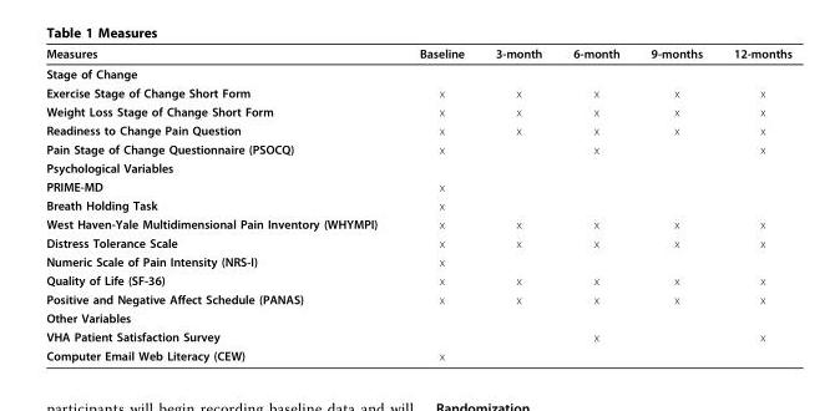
<table><thead><tr><td>Measures</td><td>Baseline</td><td>3-month</td><td>6-month</td><td>9-months</td><td>12-months</td></tr></thead><tbody><tr><td colspan="6">Stage of Change</td></tr><tr><td>Exercise Stage of Change Short Form</td><td>x</td><td>x</td><td>x</td><td>x</td><td>x</td></tr><tr><td>Weight Loss Stage of Change Short Form</td><td>x</td><td>x</td><td>x</td><td>x</td><td>x</td></tr><tr><td>Readiness to Change Pain Question</td><td>x</td><td>x</td><td>x</td><td>x</td><td>x</td></tr><tr><td>Pain Stage of Change Questionnaire (PSOCQ)</td><td>x</td><td></td><td>x</td><td></td><td>x</td></tr><tr><td colspan="6">Psychological Variables</td></tr><tr><td>PRIME-MD</td><td>x</td><td></td><td></td><td></td><td></td></tr><tr><td>Breath Holding Task</td><td>x</td><td></td><td></td><td></td><td></td></tr><tr><td>West Haven-Yale Multidimensional Pain Inventory (WHYMPI)</td><td>x</td><td>x</td><td>x</td><td>x</td><td>x</td></tr><tr><td>Distress Tolerance Scale</td><td>x</td><td>x</td><td>x</td><td>x</td><td>x</td></tr><tr><td>Numeric Scale of Pain Intensity (NRS-I)</td><td>x</td><td></td><td></td><td></td><td></td></tr><tr><td>Quality of Life (SF-36)</td><td>x</td><td>x</td><td>x</td><td>x</td><td>x</td></tr><tr><td>Positive and Negative Affect Schedule (PANAS)</td><td>x</td><td>x</td><td>x</td><td>x</td><td>x</td></tr><tr><td colspan="6">Other Variables</td></tr><tr><td>VHA Patient Satisfaction Survey</td><td></td><td></td><td>x</td><td></td><td>x</td></tr><tr><td>Computer Email Web Literacy (CEW)</td><td>x</td><td></td><td></td><td></td><td></td></tr></tbody></table>